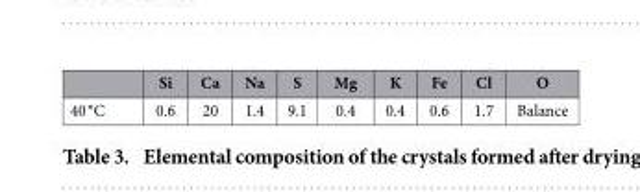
<table><thead><tr><td></td><td>Si</td><td>Ca</td><td>Na</td><td>S</td><td>Mg</td><td>K</td><td>Fe</td><td>Cl</td><td>O</td></tr></thead><tbody><tr><td>40 °C</td><td>0.6</td><td>20</td><td>1.4</td><td>9.1</td><td>0.4</td><td>0.4</td><td>0.6</td><td>1.7</td><td>Balance</td></tr></tbody></table>